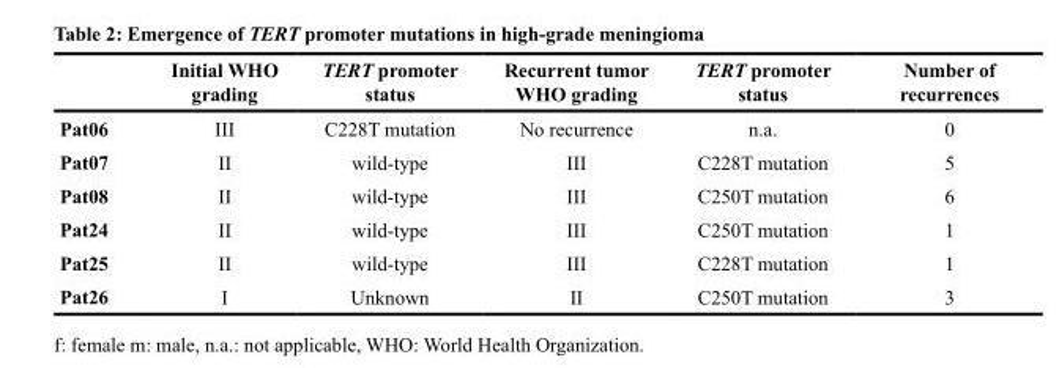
<table><thead><tr><td></td><td>Initial WHO grading</td><td>TERT promoter status</td><td>Recurrent tumor WHO grading</td><td>TERT promoter status</td><td>Number of recurrences</td></tr></thead><tbody><tr><td>Pat06</td><td>III</td><td>C228T mutation</td><td>No recurrence</td><td>n.a.</td><td>0</td></tr><tr><td>Pat07</td><td>II</td><td>wild-type</td><td>III</td><td>C228T mutation</td><td>5</td></tr><tr><td>Pat08</td><td>II</td><td>wild-type</td><td>III</td><td>C250T mutation</td><td>6</td></tr><tr><td>Pat24</td><td>II</td><td>wild-type</td><td>III</td><td>C250T mutation</td><td>1</td></tr><tr><td>Pat25</td><td>II</td><td>wild-type</td><td>III</td><td>C228T mutation</td><td>1</td></tr><tr><td>Pat26</td><td>I</td><td>Unknown</td><td>II</td><td>C250T mutation</td><td>3</td></tr></tbody></table>